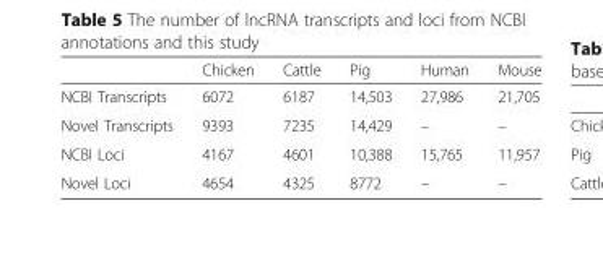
<table><thead><tr><td></td><td>Chicken</td><td>Cattle</td><td>Pig</td><td>Human</td><td>Mouse</td></tr></thead><tbody><tr><td>NCBI Transcripts</td><td>6072</td><td>6187</td><td>14,503</td><td>27,986</td><td>21,705</td></tr><tr><td>Novel Transcripts</td><td>9393</td><td>7235</td><td>14,429</td><td>–</td><td>–</td></tr><tr><td>NCBI Loci</td><td>4167</td><td>4601</td><td>10,388</td><td>15,765</td><td>11,957</td></tr><tr><td>Novel Loci</td><td>4654</td><td>4325</td><td>8772</td><td>–</td><td>–</td></tr></tbody></table>